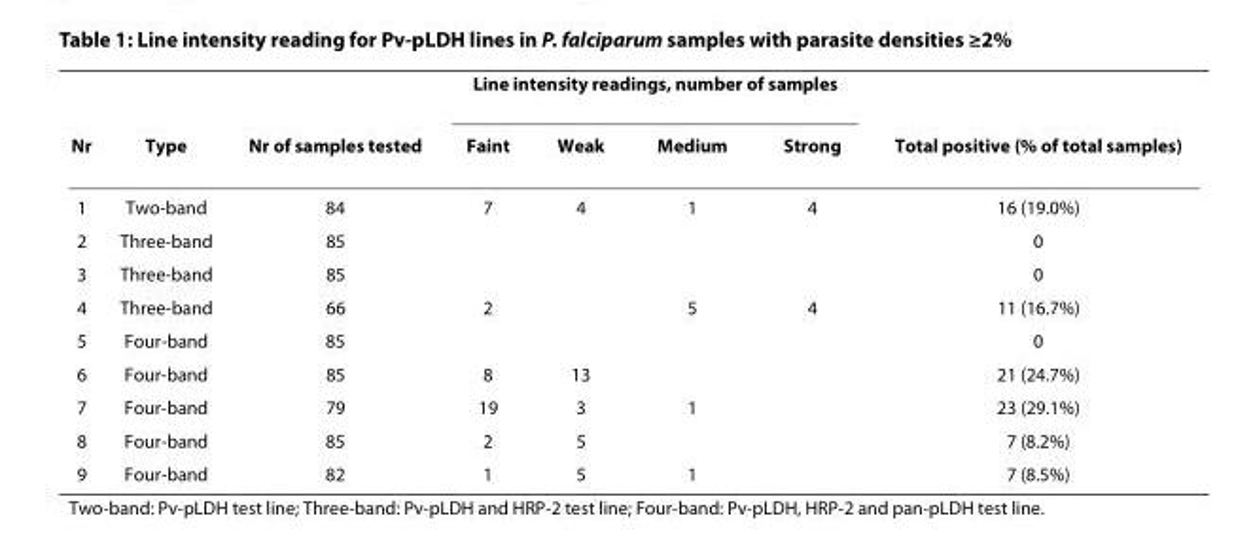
<table><thead><tr><td rowspan="2">Nr</td><td rowspan="2">Type</td><td rowspan="2">Nr of samples tested</td><td colspan="4">Line intensity readings, number of samples</td><td rowspan="2">Total positive (% of total samples)</td></tr><tr><td>Faint</td><td>Weak</td><td>Medium</td><td>Strong</td></tr></thead><tbody><tr><td>1</td><td>Two-band</td><td>84</td><td>7</td><td>4</td><td>1</td><td>4</td><td>16 (19.0%)</td></tr><tr><td>2</td><td>Three-band</td><td>85</td><td></td><td></td><td></td><td></td><td>0</td></tr><tr><td>3</td><td>Three-band</td><td>85</td><td></td><td></td><td></td><td></td><td>0</td></tr><tr><td>4</td><td>Three-band</td><td>66</td><td>2</td><td></td><td>5</td><td>4</td><td>11 (16.7%)</td></tr><tr><td>5</td><td>Four-band</td><td>85</td><td></td><td></td><td></td><td></td><td>0</td></tr><tr><td>6</td><td>Four-band</td><td>85</td><td>8</td><td>13</td><td></td><td></td><td>21 (24.7%)</td></tr><tr><td>7</td><td>Four-band</td><td>79</td><td>19</td><td>3</td><td>1</td><td></td><td>23 (29.1%)</td></tr><tr><td>8</td><td>Four-band</td><td>85</td><td>2</td><td>5</td><td></td><td></td><td>7 (8.2%)</td></tr><tr><td>9</td><td>Four-band</td><td>82</td><td>1</td><td>5</td><td>1</td><td></td><td>7 (8.5%)</td></tr></tbody></table>